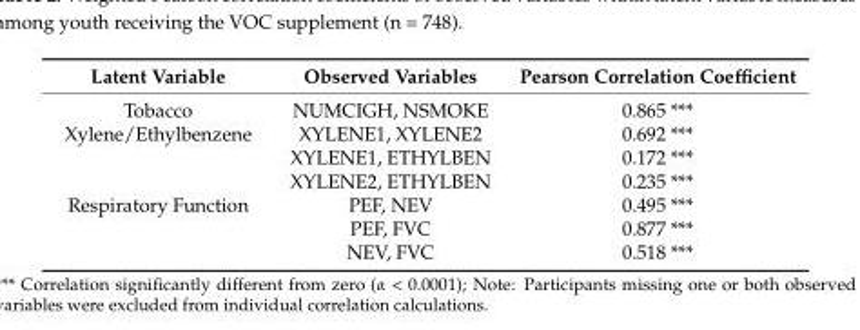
<table><thead><tr><td>Latent Variable</td><td>Observed Variables</td><td>Pearson Correlation Coefficient</td></tr></thead><tbody><tr><td>Tobacco</td><td>NUMCIGH, NSMOKE</td><td>0.865 ***</td></tr><tr><td rowspan="3">Xylene/Ethylbenzene</td><td>XYLENE1, XYLENE2</td><td>0.692 ***</td></tr><tr><td>XYLENE1, ETHYLBEN</td><td>0.172 ***</td></tr><tr><td>XYLENE2, ETHYLBEN</td><td>0.235 ***</td></tr><tr><td rowspan="3">Respiratory Function</td><td>PEF, NEV</td><td>0.495 ***</td></tr><tr><td>PEF, FVC</td><td>0.877 ***</td></tr><tr><td>NEV, FVC</td><td>0.518 ***</td></tr></tbody></table>